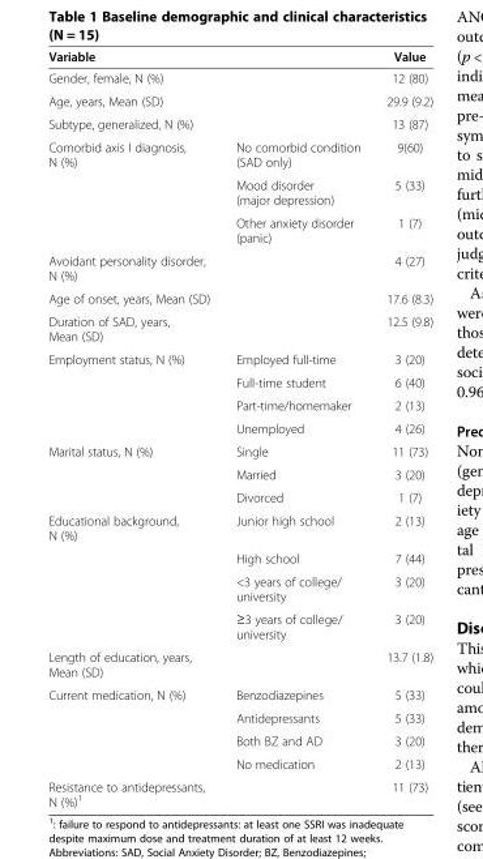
<table><thead><tr><td colspan="2">Variable</td><td rowspan="2">Value 12 (80)</td></tr><tr><td>Gender, female, N (%)</td><td></td></tr></thead><tbody><tr><td>Age, years, Mean (SD)</td><td></td><td>29.9 (9.2)</td></tr><tr><td>Subtype, generalized, N (%)</td><td></td><td>13 (87)</td></tr><tr><td rowspan="3">Comorbid axis I diagnosis, N (%)</td><td>No comorbid condition (SAD only)</td><td>9(60)</td></tr><tr><td>Mood disorder (major depression)</td><td>5 (33)</td></tr><tr><td>Other anxiety disorder (panic)</td><td>1 (7)</td></tr><tr><td>Avoidant personality disorder, N (%)</td><td></td><td>4 (27)</td></tr><tr><td>Age of onset, years, Mean (SD)</td><td></td><td>17.6 (8.3)</td></tr><tr><td>Duration of SAD, years, Mean (SD)</td><td></td><td>12.5 (9.8)</td></tr><tr><td rowspan="4">Employment status, N (%)</td><td>Employed full-time</td><td>3 (20)</td></tr><tr><td>Full-time student</td><td>6 (40)</td></tr><tr><td>Part-time/homemaker</td><td>2 (13)</td></tr><tr><td>Unemployed</td><td>4 (26)</td></tr><tr><td rowspan="3">Marital status, N (%)</td><td>Single</td><td>11 (73)</td></tr><tr><td>Married</td><td>3 (20)</td></tr><tr><td>Divorced</td><td>1 (7)</td></tr><tr><td rowspan="4">Educational background, N (%)</td><td>Junior high school</td><td>2 (13)</td></tr><tr><td>High school</td><td>7 (44)</td></tr><tr><td>&lt;3 years of college/ university</td><td>3 (20)</td></tr><tr><td>≥3 years of college/ university</td><td>3 (20)</td></tr><tr><td>Length of education, years, Mean (SD)</td><td></td><td>13.7 (1.8)</td></tr><tr><td rowspan="4">Current medication, N (%)</td><td>Benzodiazepines</td><td>5 (33)</td></tr><tr><td>Antidepressants</td><td>5 (33)</td></tr><tr><td>Both BZ and AD</td><td>3 (20)</td></tr><tr><td>No medication</td><td>2 (13)</td></tr><tr><td>Resistance to antidepressants, N (%)<sup>1</sup></td><td></td><td>11 (73)</td></tr></tbody></table>